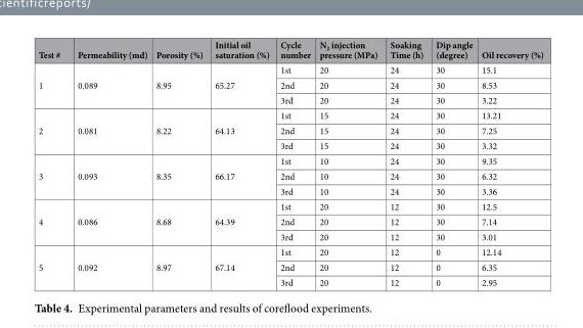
<table><thead><tr><td>Test #</td><td>Permeability (md)</td><td>Porosity (%)</td><td>Initial oil saturation (%)</td><td>Cycle number</td><td>N<sub>2</sub> injection pressure (MPa)</td><td>Soaking Time (h)</td><td>Dip angle (degree)</td><td>Oil recovery (%)</td></tr></thead><tbody><tr><td rowspan="3">1</td><td rowspan="3">0.089</td><td rowspan="3">8.95</td><td rowspan="3">65.27</td><td>1st</td><td>20</td><td>24</td><td>30</td><td>15.1</td></tr><tr><td>2nd</td><td>20</td><td>24</td><td>30</td><td>8.53</td></tr><tr><td>3rd</td><td>20</td><td>24</td><td>30</td><td>3.22</td></tr><tr><td rowspan="3">2</td><td rowspan="3">0.081</td><td rowspan="3">8.22</td><td rowspan="3">64.13</td><td>1st</td><td>15</td><td>24</td><td>30</td><td>13.21</td></tr><tr><td>2nd</td><td>15</td><td>24</td><td>30</td><td>7.25</td></tr><tr><td>3rd</td><td>15</td><td>24</td><td>30</td><td>3.32</td></tr><tr><td rowspan="3">3</td><td rowspan="3">0.093</td><td rowspan="3">8.35</td><td rowspan="3">66.17</td><td>1st</td><td>10</td><td>24</td><td>30</td><td>9.35</td></tr><tr><td>2nd</td><td>10</td><td>24</td><td>30</td><td>6.32</td></tr><tr><td>3rd</td><td>10</td><td>24</td><td>30</td><td>3.36</td></tr><tr><td rowspan="3">4</td><td rowspan="3">0.086</td><td rowspan="3">8.68</td><td rowspan="3">64.39</td><td>1st</td><td>20</td><td>12</td><td>30</td><td>12.5</td></tr><tr><td>2nd</td><td>20</td><td>12</td><td>30</td><td>7.14</td></tr><tr><td>3rd</td><td>20</td><td>12</td><td>30</td><td>3.01</td></tr><tr><td rowspan="3">5</td><td rowspan="3">0.092</td><td rowspan="3">8.97</td><td rowspan="3">67.14</td><td>1st</td><td>20</td><td>12</td><td>0</td><td>12.14</td></tr><tr><td>2nd</td><td>20</td><td>12</td><td>0</td><td>6.35</td></tr><tr><td>3rd</td><td>20</td><td>12</td><td>0</td><td>2.95</td></tr></tbody></table>